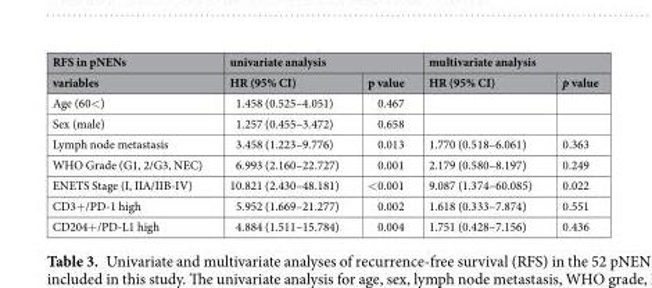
<table><thead><tr><td rowspan="2">RFS in pNENs variables</td><td colspan="2">univariate analysis</td><td colspan="2">multivariate analysis</td></tr><tr><td>HR (95% CI)</td><td>p value</td><td>HR (95% CI)</td><td>p value</td></tr></thead><tbody><tr><td>Age (60&lt;)</td><td>1.458 (0.525–4.051)</td><td>0.467</td><td></td><td></td></tr><tr><td>Sex (male)</td><td>1.257 (0.455–3.472)</td><td>0.658</td><td></td><td></td></tr><tr><td>Lymph node metastasis</td><td>3.458 (1.223–9.776)</td><td>0.013</td><td>1.770 (0.518–6.061)</td><td>0.363</td></tr><tr><td>WHO Grade (G1, 2/G3, NEC)</td><td>6.993 (2.160–22.727)</td><td>0.001</td><td>2.179 (0.580–8.197)</td><td>0.249</td></tr><tr><td>ENETS Stage (I, IIA/IIB-IV)</td><td>10.821 (2.430–48.181)</td><td>&lt;0.001</td><td>9.087 (1.374–60.085)</td><td>0.022</td></tr><tr><td>CD3+/PD-1 high</td><td>5.952 (1.669–21.277)</td><td>0.002</td><td>1.618 (0.333–7.874)</td><td>0.551</td></tr><tr><td>CD204+/PD-L1 high</td><td>4.884 (1.511–15.784)</td><td>0.004</td><td>1.751 (0.428–7.156)</td><td>0.436</td></tr></tbody></table>